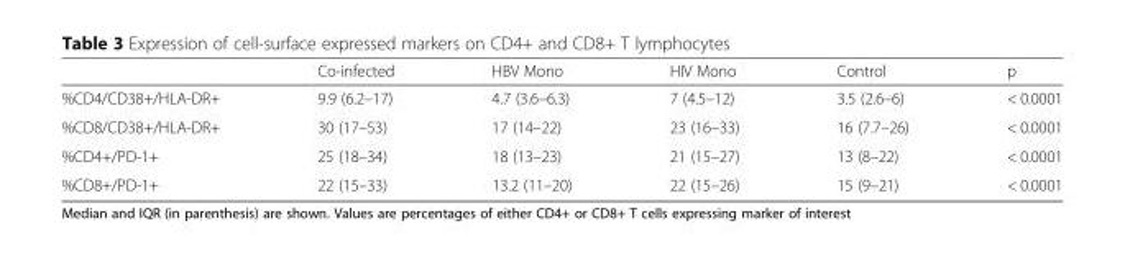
<table><thead><tr><td></td><td>Co-infected</td><td>HBV Mono</td><td>HIV Mono</td><td>Control</td><td>p</td></tr></thead><tbody><tr><td>%CD4/CD38+/HLA-DR+</td><td>9.9 (6.2–17)</td><td>4.7 (3.6–6.3)</td><td>7 (4.5–12)</td><td>3.5 (2.6–6)</td><td>&lt; 0.0001</td></tr><tr><td>%CD8/CD38+/HLA-DR+</td><td>30 (17–53)</td><td>17 (14–22)</td><td>23 (16–33)</td><td>16 (7.7–26)</td><td>&lt; 0.0001</td></tr><tr><td>%CD4+/PD-1+</td><td>25 (18–34)</td><td>18 (13–23)</td><td>21 (15–27)</td><td>13 (8–22)</td><td>&lt; 0.0001</td></tr><tr><td>%CD8+/PD-1+</td><td>22 (15–33)</td><td>13.2 (11–20)</td><td>22 (15–26)</td><td>15 (9–21)</td><td>&lt; 0.0001</td></tr></tbody></table>